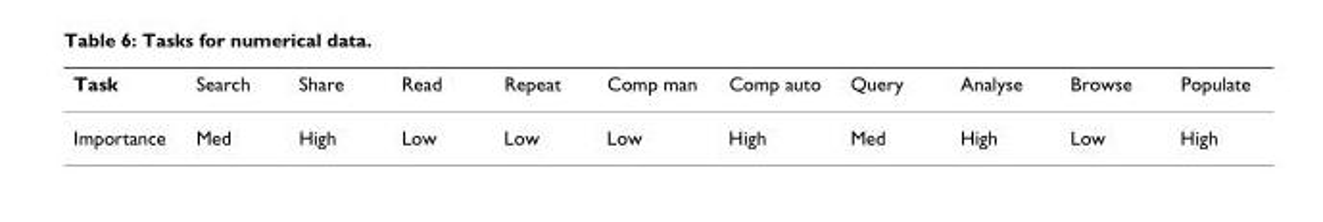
<table><thead><tr><td>Task</td><td>Search</td><td>Share</td><td>Read</td><td>Repeat</td><td>Comp man</td><td>Comp auto</td><td>Query</td><td>Analyse</td><td>Browse</td><td>Populate</td></tr></thead><tbody><tr><td>Importance</td><td>Med</td><td>High</td><td>Low</td><td>Low</td><td>Low</td><td>High</td><td>Med</td><td>High</td><td>Low</td><td>High</td></tr></tbody></table>